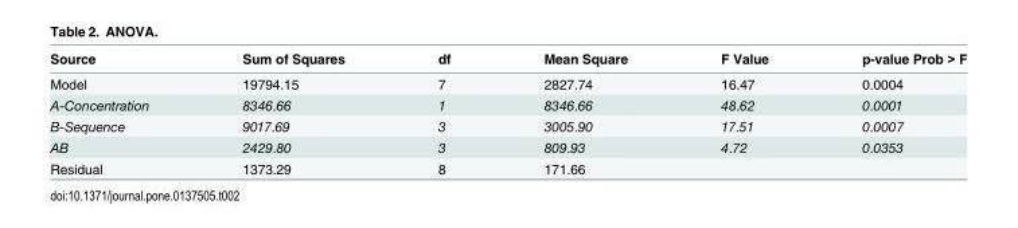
<table><thead><tr><td>Source</td><td>Sum of Squares</td><td>df</td><td>Mean Square</td><td>F Value</td><td>p-value Prob &gt; F</td></tr></thead><tbody><tr><td>Model</td><td>19794.15</td><td>7</td><td>2827.74</td><td>16.47</td><td>0.0004</td></tr><tr><td>A-Concentration</td><td>8346.66</td><td>1</td><td>8346.66</td><td>48.62</td><td>0.0001</td></tr><tr><td>B-Sequence</td><td>9017.69</td><td>3</td><td>3005.90</td><td>17.51</td><td>0.0007</td></tr><tr><td>AB</td><td>2429.80</td><td>3</td><td>809.93</td><td>4.72</td><td>0.0353</td></tr><tr><td>Residual</td><td>1373.29</td><td>8</td><td>171.66</td><td></td><td></td></tr></tbody></table>